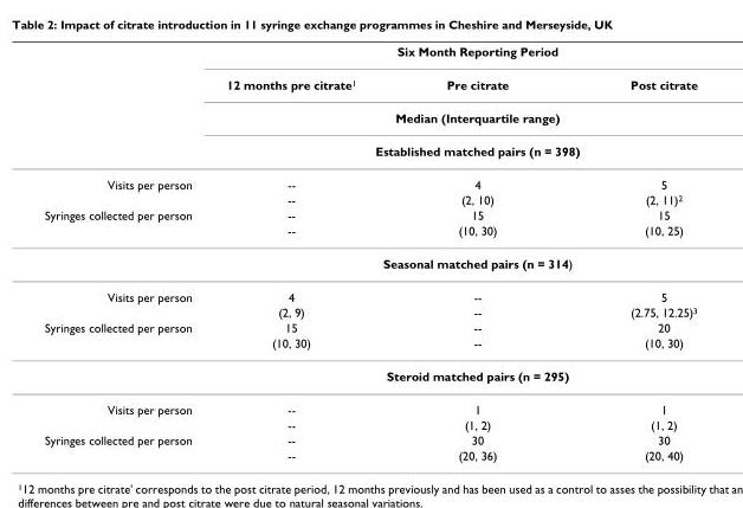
<table><thead><tr><td rowspan="4"></td><td colspan="3">Six Month Reporting Period</td></tr><tr><td>12 months pre citrate<sup>1</sup></td><td>Pre citrate</td><td>Post citrate</td></tr><tr><td rowspan="2" colspan="3">Median (Interquartile range) Established matched pairs (n = 398)</td></tr><tr></tr></thead><tbody><tr><td rowspan="2">Visits per person</td><td>--</td><td>4</td><td>5</td></tr><tr><td>--</td><td>(2, 10)</td><td>(2, 11)<sup>2</sup></td></tr><tr><td rowspan="3">Syringes collected per person</td><td>--</td><td>15</td><td>15</td></tr><tr><td>--</td><td>(10, 30)</td><td>(10, 25)</td></tr><tr><td colspan="3">Seasonal matched pairs (n = 314)</td></tr><tr><td rowspan="2">Visits per person</td><td>4</td><td>--</td><td>5</td></tr><tr><td>(2, 9)</td><td>--</td><td>(2.75, 12.25)<sup>3</sup></td></tr><tr><td rowspan="3">Syringes collected per person</td><td>15</td><td>--</td><td>20</td></tr><tr><td>(10, 30)</td><td>--</td><td>(10, 30)</td></tr><tr><td colspan="3">Steroid matched pairs (n = 295)</td></tr><tr><td rowspan="2">Visits per person</td><td>--</td><td>1</td><td>1</td></tr><tr><td>--</td><td>(1, 2)</td><td>(1, 2)</td></tr><tr><td rowspan="2">Syringes collected per person</td><td>--</td><td>30</td><td>30</td></tr><tr><td>--</td><td>(20, 36)</td><td>(20, 40)</td></tr></tbody></table>